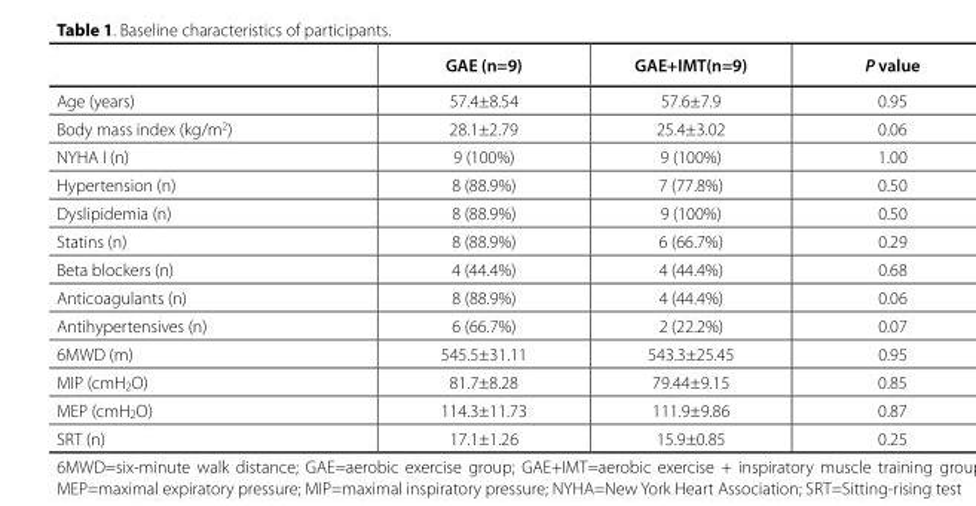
<table><thead><tr><td></td><td>GAE (n=9)</td><td>GAE+IMT(n=9)</td><td>P value</td></tr></thead><tbody><tr><td>Age (years)</td><td>57.4±8.54</td><td>57.6±7.9</td><td>0.95</td></tr><tr><td>Body mass index (kg/m<sup>2</sup>)</td><td>28.1±2.79</td><td>25.4±3.02</td><td>0.06</td></tr><tr><td>NYHA I (n)</td><td>9 (100%)</td><td>9 (100%)</td><td>1.00</td></tr><tr><td>Hypertension (n)</td><td>8 (88.9%)</td><td>7 (77.8%)</td><td>0.50</td></tr><tr><td>Dyslipidemia (n)</td><td>8 (88.9%)</td><td>9 (100%)</td><td>0.50</td></tr><tr><td>Statins (n)</td><td>8 (88.9%)</td><td>6 (66.7%)</td><td>0.29</td></tr><tr><td>Beta blockers (n)</td><td>4 (44.4%)</td><td>4 (44.4%)</td><td>0.68</td></tr><tr><td>Anticoagulants (n)</td><td>8 (88.9%)</td><td>4 (44.4%)</td><td>0.06</td></tr><tr><td>Antihypertensives (n)</td><td>6 (66.7%)</td><td>2 (22.2%)</td><td>0.07</td></tr><tr><td>6MWD (m)</td><td>545.5±31.11</td><td>543.3±25.45</td><td>0.95</td></tr><tr><td>MIP (cmH<sub>2</sub>O)</td><td>81.7±8.28</td><td>79.44±9.15</td><td>0.85</td></tr><tr><td>MEP (cmH<sub>2</sub>O)</td><td>114.3±11.73</td><td>111.9±9.86</td><td>0.87</td></tr><tr><td>SRT (n)</td><td>17.1±1.26</td><td>15.9±0.85</td><td>0.25</td></tr></tbody></table>